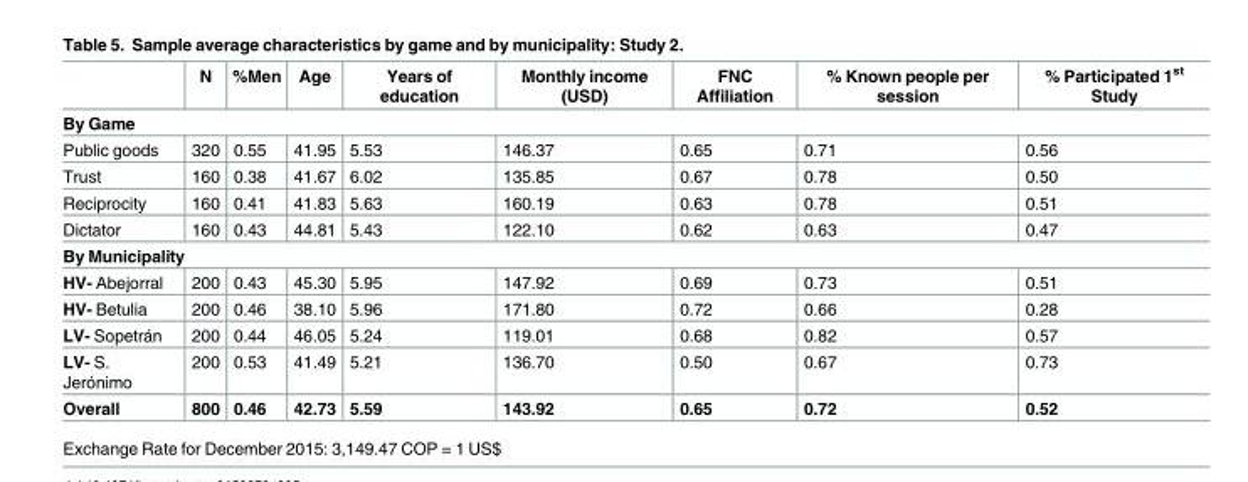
<table><thead><tr><td></td><td>N</td><td>%Men</td><td>Age</td><td>Years of education</td><td>Monthly income (USD)</td><td>FNC Affiliation</td><td>% Known people per session</td><td>% Participated 1<sup>st</sup> Study</td></tr></thead><tbody><tr><td colspan="9">By Game</td></tr><tr><td>Public goods</td><td>320</td><td>0.55</td><td>41.95</td><td>5.53</td><td>146.37</td><td>0.65</td><td>0.71</td><td>0.56</td></tr><tr><td>Trust</td><td>160</td><td>0.38</td><td>41.67</td><td>6.02</td><td>135.85</td><td>0.67</td><td>0.78</td><td>0.50</td></tr><tr><td>Reciprocity</td><td>160</td><td>0.41</td><td>41.83</td><td>5.63</td><td>160.19</td><td>0.63</td><td>0.78</td><td>0.51</td></tr><tr><td>Dictator</td><td>160</td><td>0.43</td><td>44.81</td><td>5.43</td><td>122.10</td><td>0.62</td><td>0.63</td><td>0.47</td></tr><tr><td colspan="9">By Municipality</td></tr><tr><td>HV- Abejorral</td><td>200</td><td>0.43</td><td>45.30</td><td>5.95</td><td>147.92</td><td>0.69</td><td>0.73</td><td>0.51</td></tr><tr><td>HV- Betulia</td><td>200</td><td>0.46</td><td>38.10</td><td>5.96</td><td>171.80</td><td>0.72</td><td>0.66</td><td>0.28</td></tr><tr><td>LV- Sopetrán</td><td>200</td><td>0.44</td><td>46.05</td><td>5.24</td><td>119.01</td><td>0.68</td><td>0.82</td><td>0.57</td></tr><tr><td>LV- S. Jerónimo</td><td>200</td><td>0.53</td><td>41.49</td><td>5.21</td><td>136.70</td><td>0.50</td><td>0.67</td><td>0.73</td></tr><tr><td>Overall</td><td>800</td><td>0.46</td><td>42.73</td><td>5.59</td><td>143.92</td><td>0.65</td><td>0.72</td><td>0.52</td></tr></tbody></table>